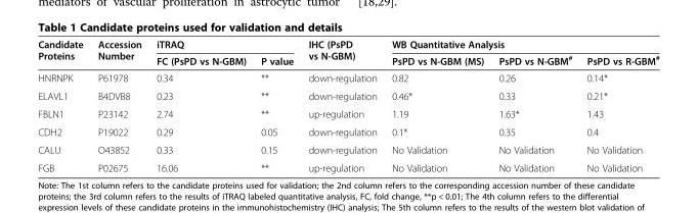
<table><thead><tr><td rowspan="2">Candidate Proteins</td><td rowspan="2">Accession Number</td><td colspan="2">iTRAQ</td><td rowspan="2">IHC (PsPD vs N-GBM)</td><td colspan="3">WB Quantitative Analysis</td></tr><tr><td>FC (PsPD vs N-GBM)</td><td>P value</td><td>PsPD vs N-GBM (MS)</td><td>PsPD vs N-GBM<sup>#</sup></td><td>PsPD vs R-GBM<sup>#</sup></td></tr></thead><tbody><tr><td>HNRNPK</td><td>P61978</td><td>0.34</td><td>**</td><td>down-regulation</td><td>0.82</td><td>0.26</td><td>0.14*</td></tr><tr><td>ELAVL1</td><td>B4DVB8</td><td>0.23</td><td>**</td><td>down-regulation</td><td>0.46*</td><td>0.33</td><td>0.21*</td></tr><tr><td>FBLN1</td><td>P23142</td><td>2.74</td><td>**</td><td>up-regulation</td><td>1.19</td><td>1.63*</td><td>1.43</td></tr><tr><td>CDH2</td><td>P19022</td><td>0.29</td><td>0.05</td><td>down-regulation</td><td>0.1*</td><td>0.35</td><td>0.4</td></tr><tr><td>CALU</td><td>O43852</td><td>0.33</td><td>0.15</td><td>down-regulation</td><td>No Validation</td><td>No Validation</td><td>No Validation</td></tr><tr><td>FGB</td><td>P02675</td><td>16.06</td><td>**</td><td>up-regulation</td><td>No Validation</td><td>No Validation</td><td>No Validation</td></tr></tbody></table>